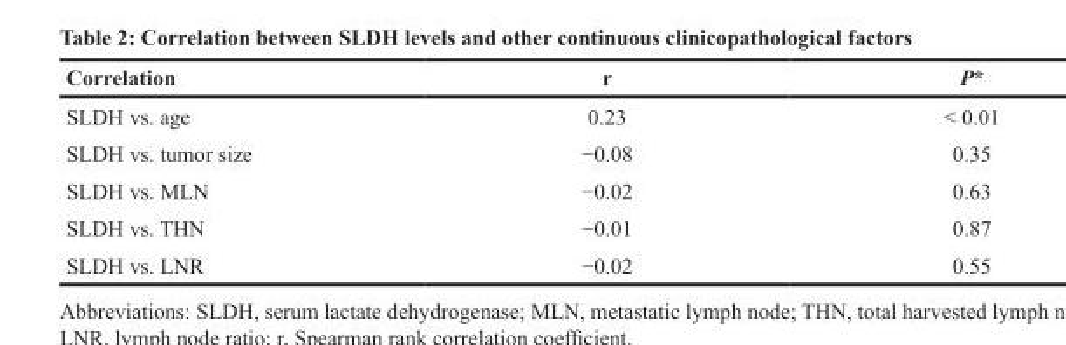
<table><thead><tr><td>Correlation</td><td>r</td><td>P*</td></tr></thead><tbody><tr><td>SLDH vs. age</td><td>0.23</td><td>&lt; 0.01</td></tr><tr><td>SLDH vs. tumor size</td><td>−0.08</td><td>0.35</td></tr><tr><td>SLDH vs. MLN</td><td>−0.02</td><td>0.63</td></tr><tr><td>SLDH vs. THN</td><td>−0.01</td><td>0.87</td></tr><tr><td>SLDH vs. LNR</td><td>−0.02</td><td>0.55</td></tr></tbody></table>